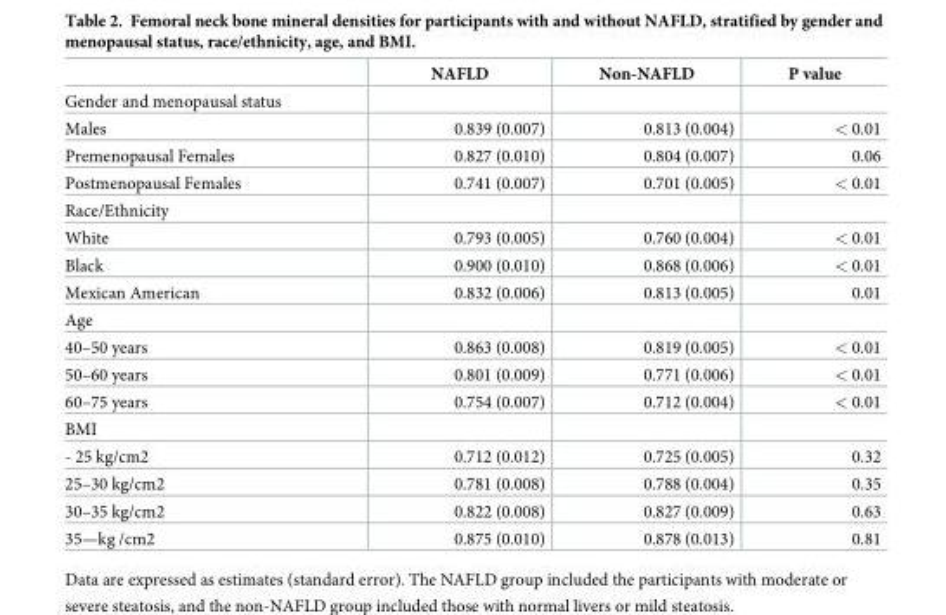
<table><thead><tr><td></td><td>NAFLD</td><td>Non-NAFLD</td><td>P value</td></tr></thead><tbody><tr><td colspan="4">Gender and menopausal status</td></tr><tr><td>Males</td><td>0.839 (0.007)</td><td>0.813 (0.004)</td><td>&lt; 0.01</td></tr><tr><td>Premenopausal Females</td><td>0.827 (0.010)</td><td>0.804 (0.007)</td><td>0.06</td></tr><tr><td>Postmenopausal Females</td><td>0.741 (0.007)</td><td>0.701 (0.005)</td><td>&lt; 0.01</td></tr><tr><td colspan="4">Race/Ethnicity</td></tr><tr><td>White</td><td>0.793 (0.005)</td><td>0.760 (0.004)</td><td>&lt; 0.01</td></tr><tr><td>Black</td><td>0.900 (0.010)</td><td>0.868 (0.006)</td><td>&lt; 0.01</td></tr><tr><td>Mexican American</td><td>0.832 (0.006)</td><td>0.813 (0.005)</td><td>0.01</td></tr><tr><td colspan="4">Age</td></tr><tr><td>40–50 years</td><td>0.863 (0.008)</td><td>0.819 (0.005)</td><td>&lt; 0.01</td></tr><tr><td>50–60 years</td><td>0.801 (0.009)</td><td>0.771 (0.006)</td><td>&lt; 0.01</td></tr><tr><td>60–75 years</td><td>0.754 (0.007)</td><td>0.712 (0.004)</td><td>&lt; 0.01</td></tr><tr><td colspan="4">BMI</td></tr><tr><td>- 25 kg/cm2</td><td>0.712 (0.012)</td><td>0.725 (0.005)</td><td>0.32</td></tr><tr><td>25–30 kg/cm2</td><td>0.781 (0.008)</td><td>0.788 (0.004)</td><td>0.35</td></tr><tr><td>30–35 kg/cm2</td><td>0.822 (0.008)</td><td>0.827 (0.009)</td><td>0.63</td></tr><tr><td>35—kg /cm2</td><td>0.875 (0.010)</td><td>0.878 (0.013)</td><td>0.81</td></tr></tbody></table>